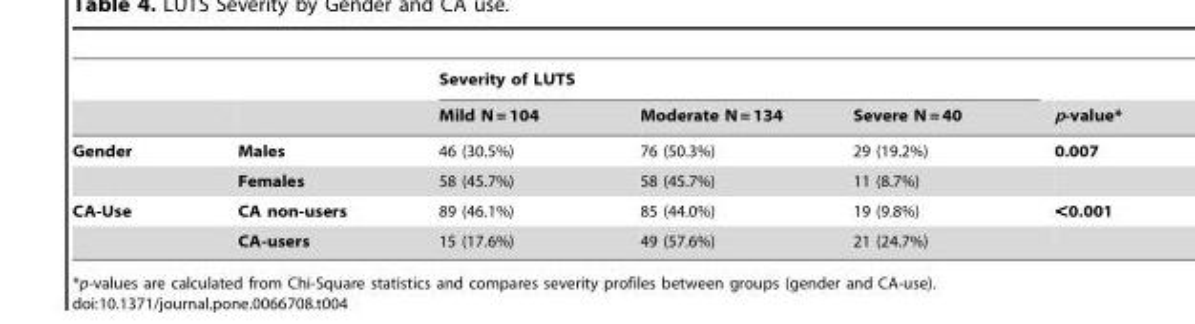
<table><thead><tr><td rowspan="2"></td><td rowspan="2"></td><td colspan="3">Severity of LUTS</td><td rowspan="2">p-value*</td></tr><tr><td>Mild N = 104</td><td>Moderate N = 134</td><td>Severe N = 40</td></tr></thead><tbody><tr><td rowspan="2">Gender</td><td>Males</td><td>46 (30.5%)</td><td>76 (50.3%)</td><td>29 (19.2%)</td><td>0.007</td></tr><tr><td>Females</td><td>58 (45.7%)</td><td>58 (45.7%)</td><td>11 (8.7%)</td><td></td></tr><tr><td rowspan="2">CA-Use</td><td>CA non-users</td><td>89 (46.1%)</td><td>85 (44.0%)</td><td>19 (9.8%)</td><td>&lt;0.001</td></tr><tr><td>CA-users</td><td>15 (17.6%)</td><td>49 (57.6%)</td><td>21 (24.7%)</td><td></td></tr></tbody></table>